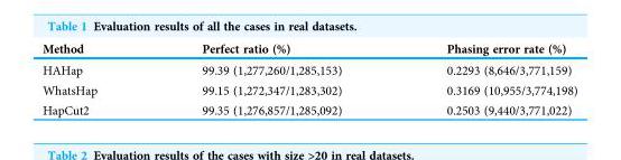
<table><thead><tr><td>Method</td><td>Perfect ratio (%)</td><td>Phasing error rate (%)</td></tr></thead><tbody><tr><td>HAHap</td><td>99.39 (1,277,260/1,285,153)</td><td>0.2293 (8,646/3,771,159)</td></tr><tr><td>WhatsHap</td><td>99.15 (1,272,347/1,283,302)</td><td>0.3169 (10,955/3,774,198)</td></tr><tr><td>HapCut2</td><td>99.35 (1,276,857/1,285,092)</td><td>0.2503 (9,440/3,771,022)</td></tr></tbody></table>